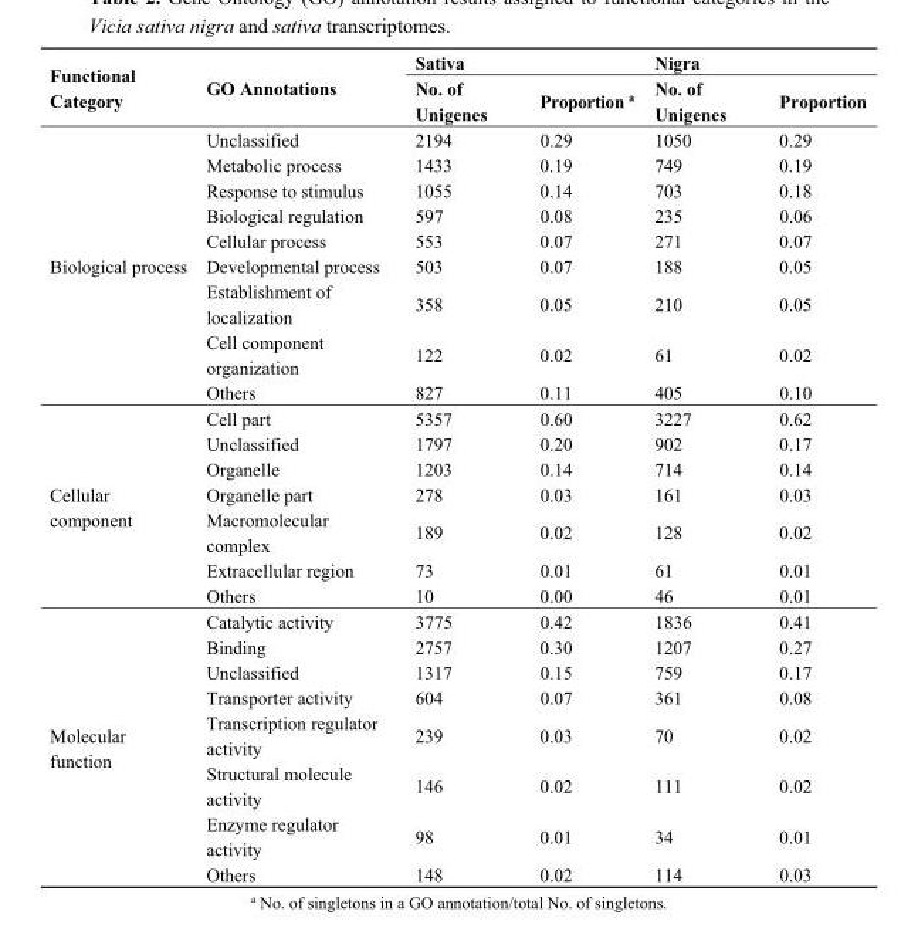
<table><thead><tr><td rowspan="2">Functional Category</td><td rowspan="2">GO Annotations</td><td colspan="2">Sativa</td><td colspan="2">Nigra</td></tr><tr><td>No. of Unigenes</td><td>Proportion <sup>a</sup></td><td>No. of Unigenes</td><td>Proportion</td></tr></thead><tbody><tr><td rowspan="9">Biological process</td><td>Unclassified</td><td>2194</td><td>0.29</td><td>1050</td><td>0.29</td></tr><tr><td>Metabolic process</td><td>1433</td><td>0.19</td><td>749</td><td>0.19</td></tr><tr><td>Response to stimulus</td><td>1055</td><td>0.14</td><td>703</td><td>0.18</td></tr><tr><td>Biological regulation</td><td>597</td><td>0.08</td><td>235</td><td>0.06</td></tr><tr><td>Cellular process</td><td>553</td><td>0.07</td><td>271</td><td>0.07</td></tr><tr><td>Developmental process</td><td>503</td><td>0.07</td><td>188</td><td>0.05</td></tr><tr><td>Establishment of localization</td><td>358</td><td>0.05</td><td>210</td><td>0.05</td></tr><tr><td>Cell component organization</td><td>122</td><td>0.02</td><td>61</td><td>0.02</td></tr><tr><td>Others</td><td>827</td><td>0.11</td><td>405</td><td>0.10</td></tr><tr><td rowspan="7">Cellular component</td><td>Cell part</td><td>5357</td><td>0.60</td><td>3227</td><td>0.62</td></tr><tr><td>Unclassified</td><td>1797</td><td>0.20</td><td>902</td><td>0.17</td></tr><tr><td>Organelle</td><td>1203</td><td>0.14</td><td>714</td><td>0.14</td></tr><tr><td>Organelle part</td><td>278</td><td>0.03</td><td>161</td><td>0.03</td></tr><tr><td>Macromolecular complex</td><td>189</td><td>0.02</td><td>128</td><td>0.02</td></tr><tr><td>Extracellular region</td><td>73</td><td>0.01</td><td>61</td><td>0.01</td></tr><tr><td>Others</td><td>10</td><td>0.00</td><td>46</td><td>0.01</td></tr><tr><td rowspan="8">Molecular function</td><td>Catalytic activity</td><td>3775</td><td>0.42</td><td>1836</td><td>0.41</td></tr><tr><td>Binding</td><td>2757</td><td>0.30</td><td>1207</td><td>0.27</td></tr><tr><td>Unclassified</td><td>1317</td><td>0.15</td><td>759</td><td>0.17</td></tr><tr><td>Transporter activity</td><td>604</td><td>0.07</td><td>361</td><td>0.08</td></tr><tr><td>Transcription regulator activity</td><td>239</td><td>0.03</td><td>70</td><td>0.02</td></tr><tr><td>Structural molecule activity</td><td>146</td><td>0.02</td><td>111</td><td>0.02</td></tr><tr><td>Enzyme regulator activity</td><td>98</td><td>0.01</td><td>34</td><td>0.01</td></tr><tr><td>Others</td><td>148</td><td>0.02</td><td>114</td><td>0.03</td></tr></tbody></table>